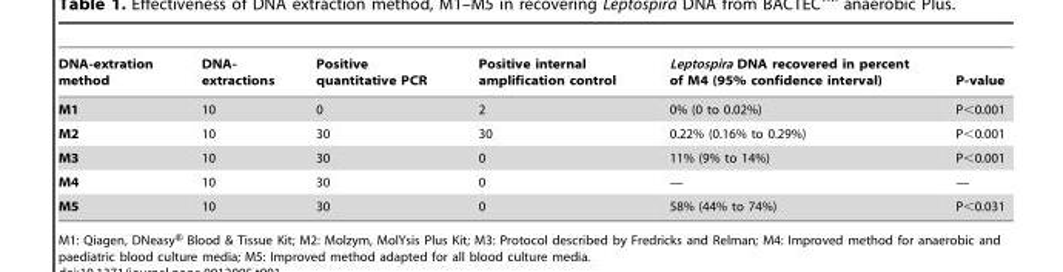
<table><thead><tr><td>DNA-extration method</td><td>DNA- extractions</td><td>Positive quantitative PCR</td><td>Positive internal amplification control</td><td>Leptospira DNA recovered in percent of M4 (95% confidence interval)</td><td>P-value</td></tr></thead><tbody><tr><td>M1</td><td>10</td><td>0</td><td>2</td><td>0% (0 to 0.02%)</td><td>P&lt;0.001</td></tr><tr><td>M2</td><td>10</td><td>30</td><td>30</td><td>0.22% (0.16% to 0.29%)</td><td>P&lt;0.001</td></tr><tr><td>M3</td><td>10</td><td>30</td><td>0</td><td>11% (9% to 14%)</td><td>P&lt;0.001</td></tr><tr><td>M4</td><td>10</td><td>30</td><td>0</td><td>—</td><td>—</td></tr><tr><td>M5</td><td>10</td><td>30</td><td>0</td><td>58% (44% to 74%)</td><td>P&lt;0.031</td></tr></tbody></table>